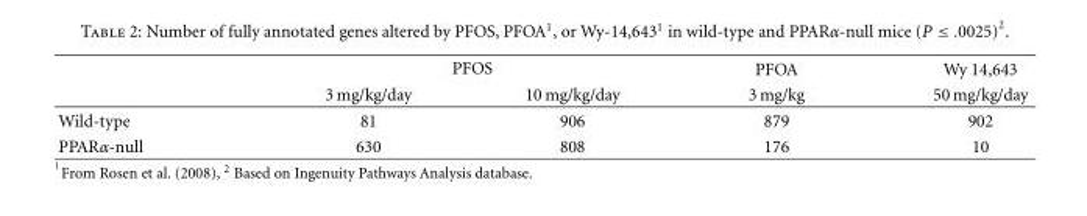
<table><thead><tr><td rowspan="2"></td><td colspan="2">PFOS</td><td rowspan="2">PFOA 3 mg/kg</td><td rowspan="2">Wy 14,643 50 mg/kg/day</td></tr><tr><td>3 mg/kg/day</td><td>10 mg/kg/day</td></tr></thead><tbody><tr><td>Wild-type</td><td>81</td><td>906</td><td>879</td><td>902</td></tr><tr><td>PPARα-null</td><td>630</td><td>808</td><td>176</td><td>10</td></tr></tbody></table>